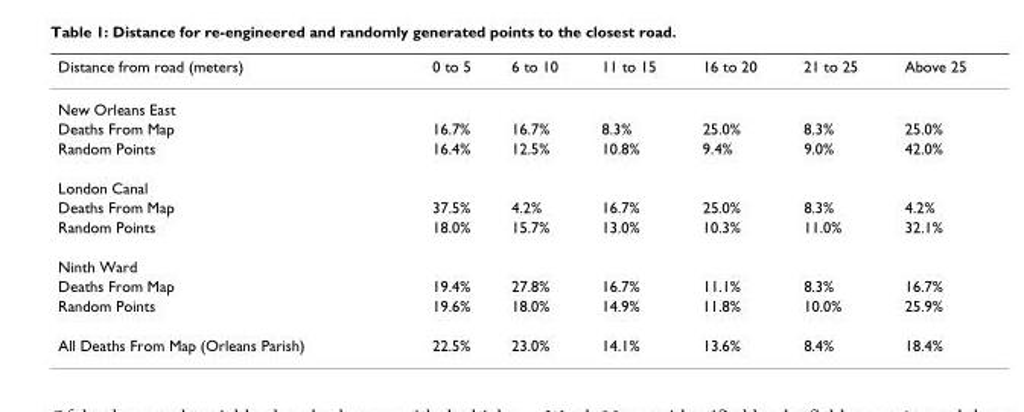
<table><thead><tr><td>Distance from road (meters)</td><td>0 to 5</td><td>6 to 10</td><td>11 to 15</td><td>16 to 20</td><td>21 to 25</td><td>Above 25</td></tr></thead><tbody><tr><td colspan="7">New Orleans East</td></tr><tr><td>Deaths From Map</td><td>16.7%</td><td>16.7%</td><td>8.3%</td><td>25.0%</td><td>8.3%</td><td>25.0%</td></tr><tr><td>Random Points</td><td>16.4%</td><td>12.5%</td><td>10.8%</td><td>9.4%</td><td>9.0%</td><td>42.0%</td></tr><tr><td colspan="7">London Canal</td></tr><tr><td>Deaths From Map</td><td>37.5%</td><td>4.2%</td><td>16.7%</td><td>25.0%</td><td>8.3%</td><td>4.2%</td></tr><tr><td>Random Points</td><td>18.0%</td><td>15.7%</td><td>13.0%</td><td>10.3%</td><td>11.0%</td><td>32.1%</td></tr><tr><td colspan="7">Ninth Ward</td></tr><tr><td>Deaths From Map</td><td>19.4%</td><td>27.8%</td><td>16.7%</td><td>11.1%</td><td>8.3%</td><td>16.7%</td></tr><tr><td>Random Points</td><td>19.6%</td><td>18.0%</td><td>14.9%</td><td>11.8%</td><td>10.0%</td><td>25.9%</td></tr><tr><td>All Deaths From Map (Orleans Parish)</td><td>22.5%</td><td>23.0%</td><td>14.1%</td><td>13.6%</td><td>8.4%</td><td>18.4%</td></tr></tbody></table>